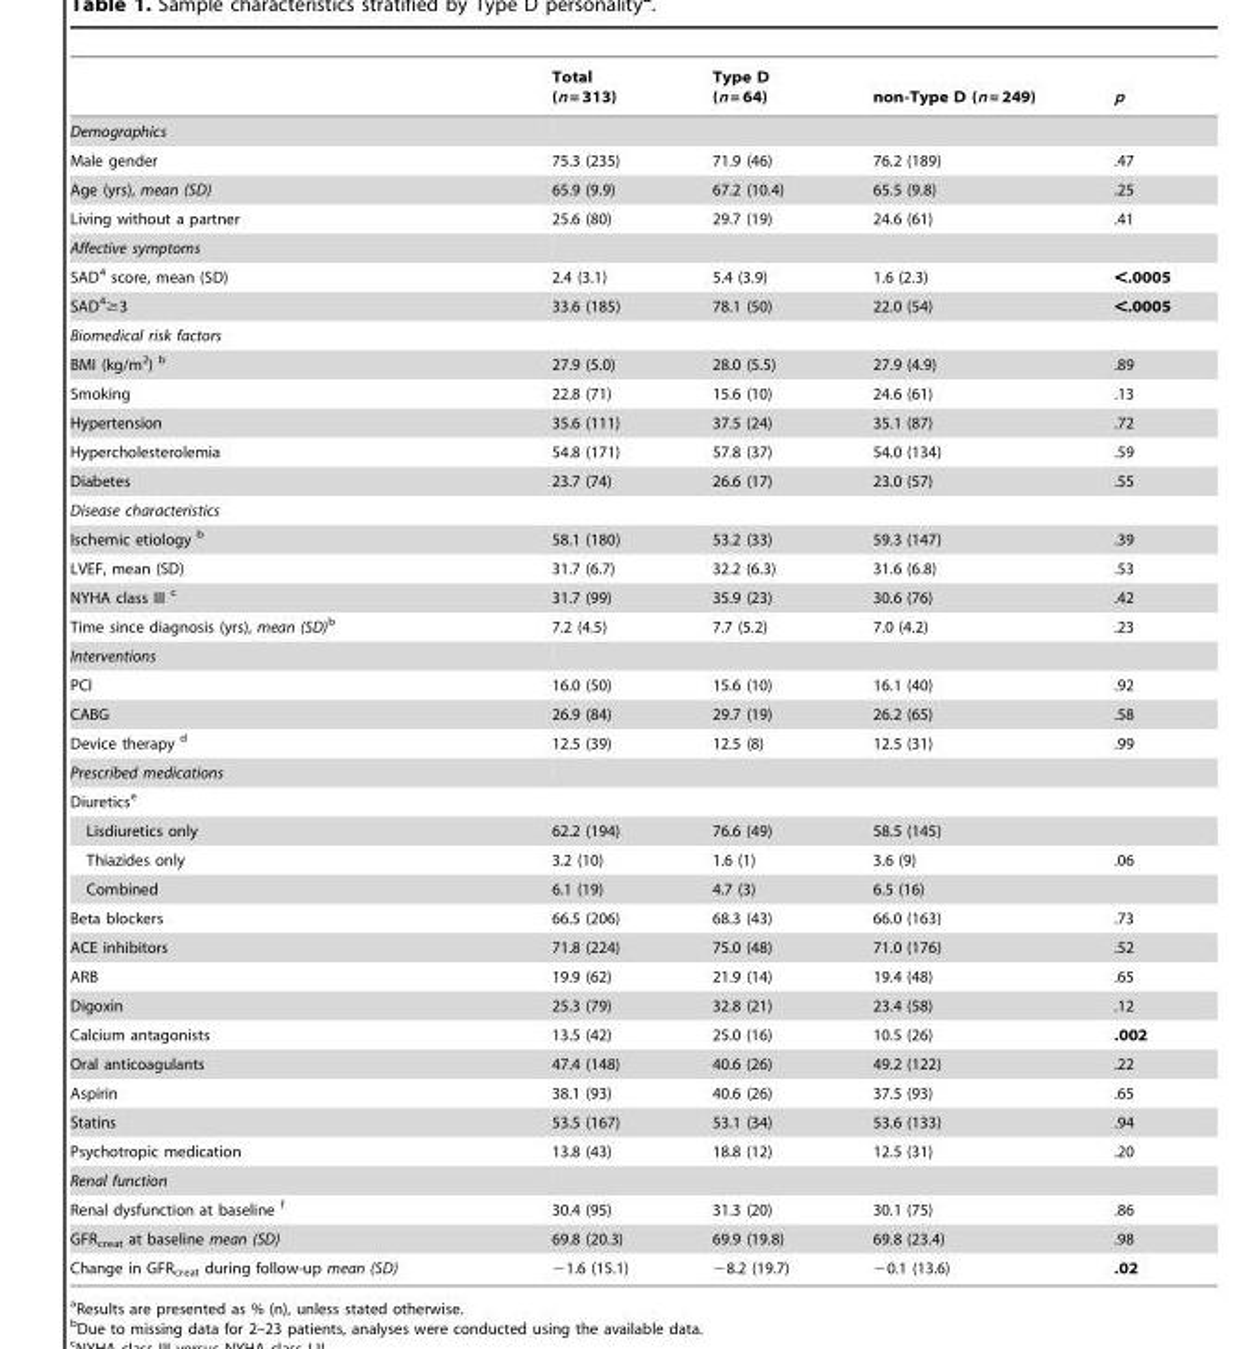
<table><thead><tr><td></td><td>Total (n = 313)</td><td>Type D (n = 64)</td><td>non-Type D (n = 249)</td><td>p</td></tr></thead><tbody><tr><td colspan="5">Demographics</td></tr><tr><td>Male gender</td><td>75.3 (235)</td><td>71.9 (46)</td><td>76.2 (189)</td><td>.47</td></tr><tr><td>Age (yrs), mean (SD)</td><td>65.9 (9.9)</td><td>67.2 (10.4)</td><td>65.5 (9.8)</td><td>.25</td></tr><tr><td>Living without a partner</td><td>25.6 (80)</td><td>29.7 (19)</td><td>24.6 (61)</td><td>.41</td></tr><tr><td colspan="5">Affective symptoms</td></tr><tr><td>SAD<sup>4</sup> score, mean (SD)</td><td>2.4 (3.1)</td><td>5.4 (3.9)</td><td>1.6 (2.3)</td><td>&lt;.0005</td></tr><tr><td>SAD<sup>4</sup>≥3</td><td>33.6 (185)</td><td>78.1 (50)</td><td>22.0 (54)</td><td>&lt;.0005</td></tr><tr><td colspan="5">Biomedical risk factors</td></tr><tr><td>BMI (kg/m<sup>2</sup>) b</td><td>27.9 (5.0)</td><td>28.0 (5.5)</td><td>27.9 (4.9)</td><td>.89</td></tr><tr><td>Smoking</td><td>22.8 (71)</td><td>15.6 (10)</td><td>24.6 (61)</td><td>.13</td></tr><tr><td>Hypertension</td><td>35.6 (111)</td><td>37.5 (24)</td><td>35.1 (87)</td><td>.72</td></tr><tr><td>Hypercholesterolemia</td><td>54.8 (171)</td><td>57.8 (37)</td><td>54.0 (134)</td><td>.59</td></tr><tr><td>Diabetes</td><td>23.7 (74)</td><td>26.6 (17)</td><td>23.0 (57)</td><td>.55</td></tr><tr><td colspan="5">Disease characteristics</td></tr><tr><td>Ischemic etiology b</td><td>58.1 (180)</td><td>53.2 (33)</td><td>59.3 (147)</td><td>.39</td></tr><tr><td>LVEF, mean (SD)</td><td>31.7 (6.7)</td><td>32.2 (6.3)</td><td>31.6 (6.8)</td><td>.53</td></tr><tr><td>NYHA class III c</td><td>31.7 (99)</td><td>35.9 (23)</td><td>30.6 (76)</td><td>.42</td></tr><tr><td>Time since diagnosis (yrs), mean (SD)b</td><td>7.2 (4.5)</td><td>7.7 (5.2)</td><td>7.0 (4.2)</td><td>.23</td></tr><tr><td colspan="5">Interventions</td></tr><tr><td>PCI</td><td>16.0 (50)</td><td>15.6 (10)</td><td>16.1 (40)</td><td>.92</td></tr><tr><td>CABG</td><td>26.9 (84)</td><td>29.7 (19)</td><td>26.2 (65)</td><td>.58</td></tr><tr><td>Device therapy d</td><td>12.5 (39)</td><td>12.5 (8)</td><td>12.5 (31)</td><td>.99</td></tr><tr><td colspan="5">Prescribed medications</td></tr><tr><td colspan="5">Diuretics<sup>e</sup></td></tr><tr><td>Lisdiuretics only</td><td>62.2 (194)</td><td>76.6 (49)</td><td>58.5 (145)</td><td></td></tr><tr><td>Thiazides only</td><td>3.2 (10)</td><td>1.6 (1)</td><td>3.6 (9)</td><td>.06</td></tr><tr><td>Combined</td><td>6.1 (19)</td><td>4.7 (3)</td><td>6.5 (16)</td><td></td></tr><tr><td>Beta blockers</td><td>66.5 (206)</td><td>68.3 (43)</td><td>66.0 (163)</td><td>.73</td></tr><tr><td>ACE inhibitors</td><td>71.8 (224)</td><td>75.0 (48)</td><td>71.0 (176)</td><td>.52</td></tr><tr><td>ARB</td><td>19.9 (62)</td><td>21.9 (14)</td><td>19.4 (48)</td><td>.65</td></tr><tr><td>Digoxin</td><td>25.3 (79)</td><td>32.8 (21)</td><td>23.4 (58)</td><td>.12</td></tr><tr><td>Calcium antagonists</td><td>13.5 (42)</td><td>25.0 (16)</td><td>10.5 (26)</td><td>.002</td></tr><tr><td>Oral anticoagulants</td><td>47.4 (148)</td><td>40.6 (26)</td><td>49.2 (122)</td><td>.22</td></tr><tr><td>Aspirin</td><td>38.1 (93)</td><td>40.6 (26)</td><td>37.5 (93)</td><td>.65</td></tr><tr><td>Statins</td><td>53.5 (167)</td><td>53.1 (34)</td><td>53.6 (133)</td><td>.94</td></tr><tr><td>Psychotropic medication</td><td>13.8 (43)</td><td>18.8 (12)</td><td>12.5 (31)</td><td>.20</td></tr><tr><td colspan="5">Renal function</td></tr><tr><td>Renal dysfunction at baseline f</td><td>30.4 (95)</td><td>31.3 (20)</td><td>30.1 (75)</td><td>.86</td></tr><tr><td>GFR<sub>creat</sub> at baseline mean (SD)</td><td>69.8 (20.3)</td><td>69.9 (19.8)</td><td>69.8 (23.4)</td><td>.98</td></tr><tr><td>Change in GFR<sub>creat</sub> during follow-up mean (SD)</td><td>−1.6 (15.1)</td><td>−8.2 (19.7)</td><td>−0.1 (13.6)</td><td>.02</td></tr></tbody></table>